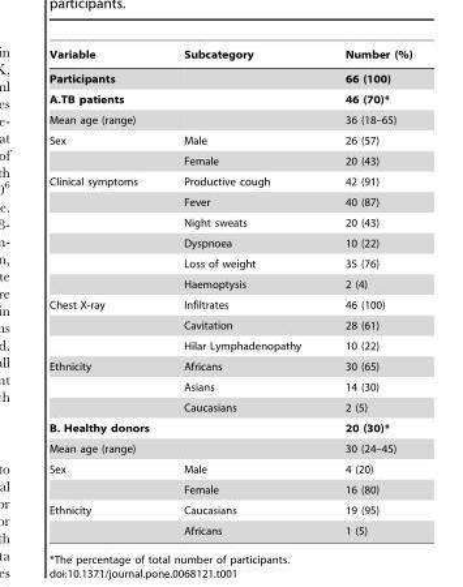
<table><thead><tr><td>Variable</td><td>Subcategory</td><td>Number (%)</td></tr></thead><tbody><tr><td>Participants</td><td></td><td>66 (100)</td></tr><tr><td>A.TB patients</td><td></td><td>46 (70)*</td></tr><tr><td>Mean age (range)</td><td></td><td>36 (18–65)</td></tr><tr><td rowspan="2">Sex</td><td>Male</td><td>26 (57)</td></tr><tr><td>Female</td><td>20 (43)</td></tr><tr><td rowspan="6">Clinical symptoms</td><td>Productive cough</td><td>42 (91)</td></tr><tr><td>Fever</td><td>40 (87)</td></tr><tr><td>Night sweats</td><td>20 (43)</td></tr><tr><td>Dyspnoea</td><td>10 (22)</td></tr><tr><td>Loss of weight</td><td>35 (76)</td></tr><tr><td>Haemoptysis</td><td>2 (4)</td></tr><tr><td rowspan="3">Chest X-ray</td><td>Infiltrates</td><td>46 (100)</td></tr><tr><td>Cavitation</td><td>28 (61)</td></tr><tr><td>Hilar Lymphadenopathy</td><td>10 (22)</td></tr><tr><td rowspan="3">Ethnicity</td><td>Africans</td><td>30 (65)</td></tr><tr><td>Asians</td><td>14 (30)</td></tr><tr><td>Caucasians</td><td>2 (5)</td></tr><tr><td>B. Healthy donors</td><td></td><td>20 (30)*</td></tr><tr><td>Mean age (range)</td><td></td><td>30 (24–45)</td></tr><tr><td rowspan="2">Sex</td><td>Male</td><td>4 (20)</td></tr><tr><td>Female</td><td>16 (80)</td></tr><tr><td rowspan="2">Ethnicity</td><td>Caucasians</td><td>19 (95)</td></tr><tr><td>Africans</td><td>1 (5)</td></tr></tbody></table>